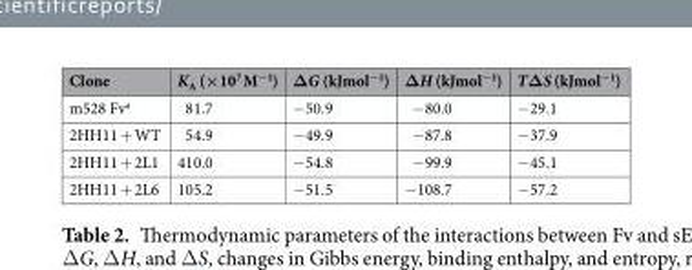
<table><thead><tr><td>Clone</td><td>K<sub>A</sub> (×10<sup>7</sup> M<sup>−1</sup>)</td><td>ΔG (kJmol<sup>−1</sup>)</td><td>ΔH (kJmol<sup>−1</sup>)</td><td>TΔS (kJmol<sup>−1</sup>)</td></tr></thead><tbody><tr><td>m528 Fv<sup>a</sup></td><td>81.7</td><td>−50.9</td><td>−80.0</td><td>−29.1</td></tr><tr><td>2HH11 + WT</td><td>54.9</td><td>−49.9</td><td>−87.8</td><td>−37.9</td></tr><tr><td>2HH11 + 2L1</td><td>410.0</td><td>−54.8</td><td>−99.9</td><td>−45.1</td></tr><tr><td>2HH11 + 2L6</td><td>105.2</td><td>−51.5</td><td>−108.7</td><td>−57.2</td></tr></tbody></table>